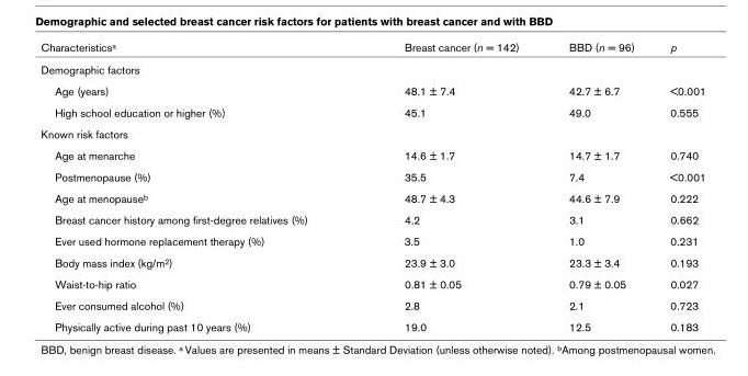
<table><thead><tr><td>Characteristicsa</td><td>Breast cancer (n = 142)</td><td>BBD (n = 96)</td><td>p</td></tr></thead><tbody><tr><td colspan="4">Demographic factors</td></tr><tr><td>Age (years)</td><td>48.1 ± 7.4</td><td>42.7 ± 6.7</td><td>&lt;0.001</td></tr><tr><td>High school education or higher (%)</td><td>45.1</td><td>49.0</td><td>0.555</td></tr><tr><td colspan="4">Known risk factors</td></tr><tr><td>Age at menarche</td><td>14.6 ± 1.7</td><td>14.7 ± 1.7</td><td>0.740</td></tr><tr><td>Postmenopause (%)</td><td>35.5</td><td>7.4</td><td>&lt;0.001</td></tr><tr><td>Age at menopauseb</td><td>48.7 ± 4.3</td><td>44.6 ± 7.9</td><td>0.222</td></tr><tr><td>Breast cancer history among first-degree relatives (%)</td><td>4.2</td><td>3.1</td><td>0.662</td></tr><tr><td>Ever used hormone replacement therapy (%)</td><td>3.5</td><td>1.0</td><td>0.231</td></tr><tr><td>Body mass index (kg/m2)</td><td>23.9 ± 3.0</td><td>23.3 ± 3.4</td><td>0.193</td></tr><tr><td>Waist-to-hip ratio</td><td>0.81 ± 0.05</td><td>0.79 ± 0.05</td><td>0.027</td></tr><tr><td>Ever consumed alcohol (%)</td><td>2.8</td><td>2.1</td><td>0.723</td></tr><tr><td>Physically active during past 10 years (%)</td><td>19.0</td><td>12.5</td><td>0.183</td></tr></tbody></table>